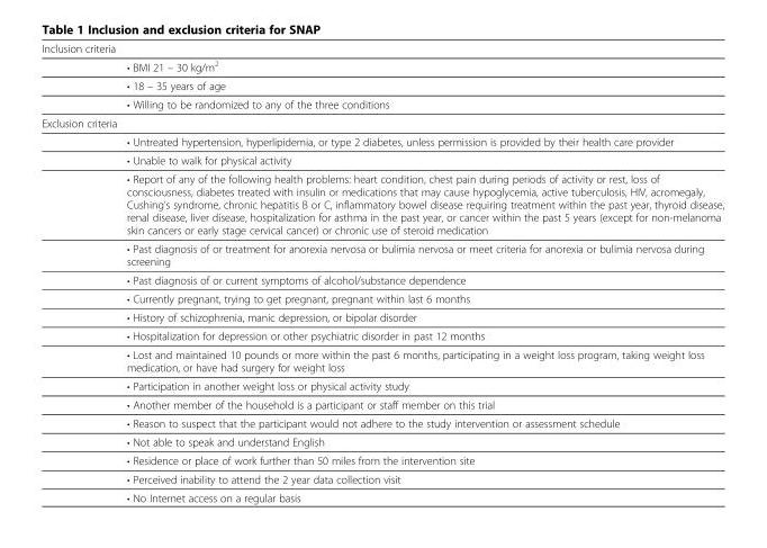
<table><tbody><tr><td colspan="2">Inclusion criteria</td></tr><tr><td></td><td>• BMI 21 – 30 kg/m<sup>2</sup></td></tr><tr><td></td><td>• 18 – 35 years of age</td></tr><tr><td></td><td>• Willing to be randomized to any of the three conditions</td></tr><tr><td colspan="2">Exclusion criteria</td></tr><tr><td></td><td>• Untreated hypertension, hyperlipidemia, or type 2 diabetes, unless permission is provided by their health care provider</td></tr><tr><td></td><td>• Unable to walk for physical activity</td></tr><tr><td></td><td>• Report of any of the following health problems: heart condition, chest pain during periods of activity or rest, loss of consciousness, diabetes treated with insulin or medications that may cause hypoglycemia, active tuberculosis, HIV, acromegaly, Cushing’s syndrome, chronic hepatitis B or C, inflammatory bowel disease requiring treatment within the past year, thyroid disease, renal disease, liver disease, hospitalization for asthma in the past year, or cancer within the past 5 years (except for non-melanoma skin cancers or early stage cervical cancer) or chronic use of steroid medication</td></tr><tr><td></td><td>• Past diagnosis of or treatment for anorexia nervosa or bulimia nervosa or meet criteria for anorexia or bulimia nervosa during screening</td></tr><tr><td></td><td>• Past diagnosis of or current symptoms of alcohol/substance dependence</td></tr><tr><td></td><td>• Currently pregnant, trying to get pregnant, pregnant within last 6 months</td></tr><tr><td></td><td>• History of schizophrenia, manic depression, or bipolar disorder</td></tr><tr><td></td><td>• Hospitalization for depression or other psychiatric disorder in past 12 months</td></tr><tr><td></td><td>• Lost and maintained 10 pounds or more within the past 6 months, participating in a weight loss program, taking weight loss medication, or have had surgery for weight loss</td></tr><tr><td></td><td>• Participation in another weight loss or physical activity study</td></tr><tr><td></td><td>• Another member of the household is a participant or staff member on this trial</td></tr><tr><td></td><td>• Reason to suspect that the participant would not adhere to the study intervention or assessment schedule</td></tr><tr><td></td><td>• Not able to speak and understand English</td></tr><tr><td></td><td>• Residence or place of work further than 50 miles from the intervention site</td></tr><tr><td></td><td>• Perceived inability to attend the 2 year data collection visit</td></tr><tr><td></td><td>• No Internet access on a regular basis</td></tr></tbody></table>